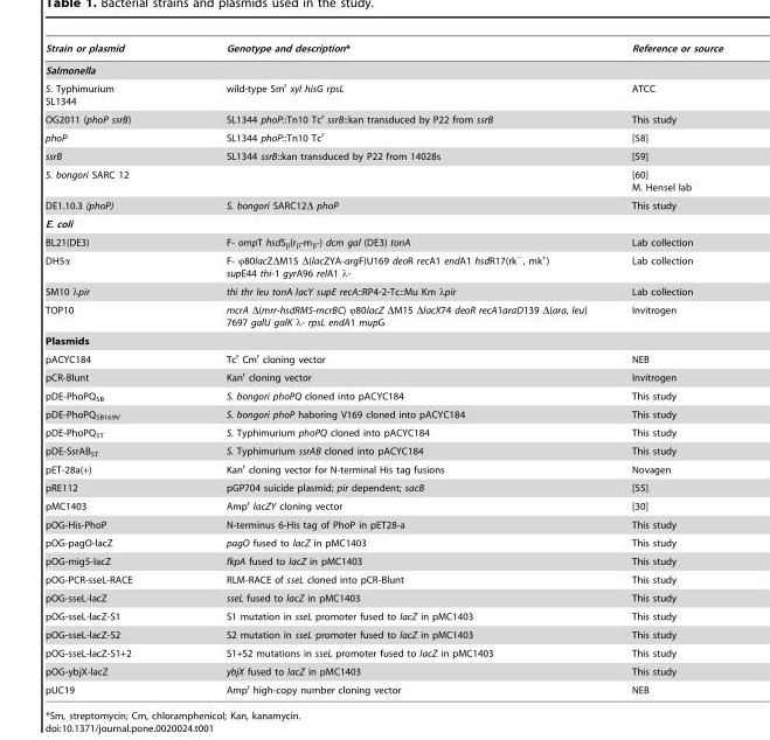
<table><thead><tr><td>Strain or plasmid</td><td>Genotype and description*</td><td>Reference or source</td></tr></thead><tbody><tr><td colspan="3">Salmonella</td></tr><tr><td>S. Typhimurium SL1344</td><td>wild-type Sm<sup>r</sup> xyl hisG rpsL</td><td>ATCC</td></tr><tr><td>OG2011 (phoP ssrB)</td><td>SL1344 phoP::Tn10 Tc<sup>r</sup> ssrB::kan transduced by P22 from ssrB</td><td>This study</td></tr><tr><td>phoP</td><td>SL1344 phoP::Tn10 Tc<sup>r</sup></td><td>[58]</td></tr><tr><td>ssrB</td><td>SL1344 ssrB::kan transduced by P22 from 14028s</td><td>[59]</td></tr><tr><td>S. bongori SARC 12</td><td></td><td>[60] M. Hensel lab</td></tr><tr><td>DE1.10.3 (phoP)</td><td>S. bongori SARC12Δ phoP</td><td>This study</td></tr><tr><td colspan="3">E. coli</td></tr><tr><td>BL21(DE3)</td><td>F- ompT hsdS<sub>β</sub>(r<sub>β</sub>-m<sub>β</sub>-) dcm gal (DE3) tonA</td><td>Lab collection</td></tr><tr><td>DH5α</td><td>F- ϕ80lacZΔM15 Δ(lacZYA-argF)U169 deoR recA1 endA1 hsdR17(rk<sup>−</sup>, mk<sup>+</sup>) supE44 thi-1 gyrA96 relA1 λ-</td><td>Lab collection</td></tr><tr><td>SM10 λpir</td><td>thi thr leu tonA lacY supE recA::RP4-2-Tc::Mu Km λpir</td><td>Lab collection</td></tr><tr><td>TOP10</td><td>mcrA Δ(mrr-hsdRMS-mcrBC) ϕ80lacZ ΔM15 ΔlacX74 deoR recA1araD139 Δ(ara, leu) 7697 galU galK λ- rpsL endA1 mupG</td><td>Invitrogen</td></tr><tr><td colspan="3">Plasmids</td></tr><tr><td>pACYC184</td><td>Tc<sup>r</sup> Cm<sup>r</sup> cloning vector</td><td>NEB</td></tr><tr><td>pCR-Blunt</td><td>Kan<sup>r</sup> cloning vector</td><td>Invitrogen</td></tr><tr><td>pDE-PhoPQ<sub>SB</sub></td><td>S. bongori phoPQ cloned into pACYC184</td><td>This study</td></tr><tr><td>pDE-PhoPQ<sub>SB169V</sub></td><td>S. bongori phoP haboring V169 cloned into pACYC184</td><td>This study</td></tr><tr><td>pDE-PhoPQ<sub>ST</sub></td><td>S. Typhimurium phoPQ cloned into pACYC184</td><td>This study</td></tr><tr><td>pDE-SsrAB<sub>ST</sub></td><td>S. Typhimurium ssrAB cloned into pACYC184</td><td>This study</td></tr><tr><td>pET-28a(+)</td><td>Kan<sup>r</sup> cloning vector for N-terminal His tag fusions</td><td>Novagen</td></tr><tr><td>pRE112</td><td>pGP704 suicide plasmid; pir dependent; sacB</td><td>[55]</td></tr><tr><td>pMC1403</td><td>Amp<sup>r</sup> lacZY cloning vector</td><td>[30]</td></tr><tr><td>pOG-His-PhoP</td><td>N-terminus 6-His tag of PhoP in pET28-a</td><td>This study</td></tr><tr><td>pOG-pagO-lacZ</td><td>pagO fused to lacZ in pMC1403</td><td>This study</td></tr><tr><td>pOG-mig5-lacZ</td><td>fkpA fused to lacZ in pMC1403</td><td>This study</td></tr><tr><td>pOG-PCR-sseL-RACE</td><td>RLM-RACE of sseL cloned into pCR-Blunt</td><td>This study</td></tr><tr><td>pOG-sseL-lacZ</td><td>sseL fused to lacZ in pMC1403</td><td>This study</td></tr><tr><td>pOG-sseL-lacZ-S1</td><td>S1 mutation in sseL promoter fused to lacZ in pMC1403</td><td>This study</td></tr><tr><td>pOG-sseL-lacZ-S2</td><td>S2 mutation in sseL promoter fused to lacZ in pMC1403</td><td>This study</td></tr><tr><td>pOG-sseL-lacZ-S1+2</td><td>S1+S2 mutations in sseL promoter fused to lacZ in pMC1403</td><td>This study</td></tr><tr><td>pOG-ybjX-lacZ</td><td>ybjX fused to lacZ in pMC1403</td><td>This study</td></tr><tr><td>pUC19</td><td>Amp<sup>r</sup> high-copy number cloning vector</td><td>NEB</td></tr></tbody></table>